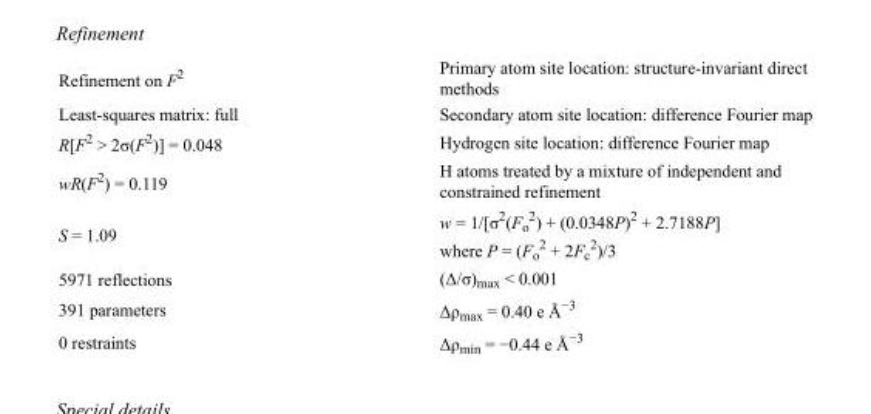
<table><tbody><tr><td>Refinement on F<sup>2</sup></td><td>Primary atom site location: structure-invariant direct methods</td></tr><tr><td>Least-squares matrix: full</td><td>Secondary atom site location: difference Fourier map</td></tr><tr><td>R[F<sup>2</sup> &gt; 2σ(F<sup>2</sup>)] = 0.048</td><td>Hydrogen site location: difference Fourier map</td></tr><tr><td>wR(F<sup>2</sup>) = 0.119</td><td>H atoms treated by a mixture of independent and constrained refinement</td></tr><tr><td>S = 1.09</td><td>w = 1/[σ<sup>2</sup>(F<sub>o</sub> <sup>2</sup>) + (0.0348P)<sup>2</sup> + 2.7188P] where P = (F<sub>o</sub> <sup>2</sup> + 2F<sub>c</sub> <sup>2</sup>)/3</td></tr><tr><td>5971 reflections</td><td>(Δ/σ)<sub>max</sub> &lt; 0.001</td></tr><tr><td>391 parameters</td><td>Δρ<sub>max</sub> = 0.40 e Å<sup>−3</sup></td></tr><tr><td>0 restraints</td><td>Δρ<sub>min</sub> = −0.44 e Å<sup>−3</sup></td></tr></tbody></table>